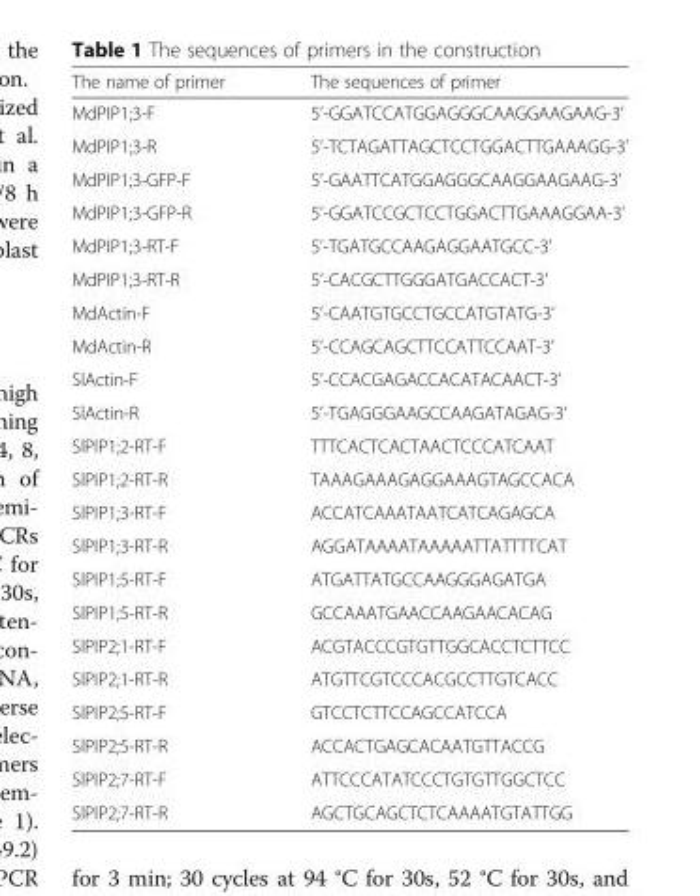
<table><thead><tr><td>The name of primer</td><td>The sequences of primer</td></tr></thead><tbody><tr><td>MdPIP1;3-F</td><td>5’-GGATCCATGGAGGGCAAGGAAGAAG-3’</td></tr><tr><td>MdPIP1;3-R</td><td>5’-TCTAGATTAGCTCCTGGACTTGAAAGG-3’</td></tr><tr><td>MdPIP1;3-GFP-F</td><td>5’-GAATTCATGGAGGGCAAGGAAGAAG-3’</td></tr><tr><td>MdPIP1;3-GFP-R</td><td>5’-GGATCCGCTCCTGGACTTGAAAGGAA-3’</td></tr><tr><td>MdPIP1;3-RT-F</td><td>5’-TGATGCCAAGAGGAATGCC-3’</td></tr><tr><td>MdPIP1;3-RT-R</td><td>5’-CACGCTTGGGATGACCACT-3’</td></tr><tr><td>MdActin-F</td><td>5’-CAATGTGCCTGCCATGTATG-3’</td></tr><tr><td>MdActin-R</td><td>5’-CCAGCAGCTTCCATTCCAAT-3’</td></tr><tr><td>SlActin-F</td><td>5’-CCACGAGACCACATACAACT-3’</td></tr><tr><td>SlActin-R</td><td>5’-TGAGGGAAGCCAAGATAGAG-3’</td></tr><tr><td>SlPIP1;2-RT-F</td><td>TTTCACTCACTAACTCCCATCAAT</td></tr><tr><td>SlPIP1;2-RT-R</td><td>TAAAGAAAGAGGAAAGTAGCCACA</td></tr><tr><td>SlPIP1;3-RT-F</td><td>ACCATCAAATAATCATCAGAGCA</td></tr><tr><td>SlPIP1;3-RT-R</td><td>AGGATAAAATAAAAATTATTTTCAT</td></tr><tr><td>SlPIP1;5-RT-F</td><td>ATGATTATGCCAAGGGAGATGA</td></tr><tr><td>SlPIP1;5-RT-R</td><td>GCCAAATGAACCAAGAACACAG</td></tr><tr><td>SlPIP2;1-RT-F</td><td>ACGTACCCGTGTTGGCACCTCTTCC</td></tr><tr><td>SlPIP2;1-RT-R</td><td>ATGTTCGTCCCACGCCTTGTCACC</td></tr><tr><td>SlPIP2;5-RT-F</td><td>GTCCTCTTCCAGCCATCCA</td></tr><tr><td>SlPIP2;5-RT-R</td><td>ACCACTGAGCACAATGTTACCG</td></tr><tr><td>SlPIP2;7-RT-F</td><td>ATTCCCATATCCCTGTGTTGGCTCC</td></tr><tr><td>SlPIP2;7-RT-R</td><td>AGCTGCAGCTCTCAAAATGTATTGG</td></tr></tbody></table>